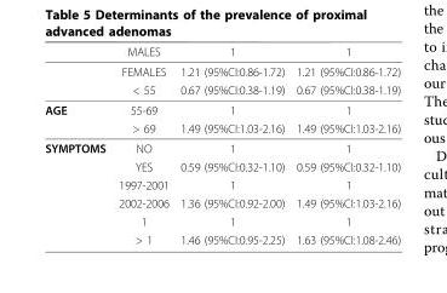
<table><thead><tr><td></td><td>MALES</td><td>1</td><td>1</td></tr></thead><tbody><tr><td></td><td>FEMALES</td><td>1.21 (95%CI:0.86-1.72)</td><td>1.21 (95%CI:0.86-1.72)</td></tr><tr><td></td><td>&lt; 55</td><td>0.67 (95%CI:0.38-1.19)</td><td>0.67 (95%CI:0.38-1.19)</td></tr><tr><td rowspan="2">AGE</td><td>55-69</td><td>1</td><td>1</td></tr><tr><td>&gt; 69</td><td>1.49 (95%CI:1.03-2.16)</td><td>1.49 (95%CI:1.03-2.16)</td></tr><tr><td rowspan="6">SYMPTOMS</td><td>NO</td><td>1</td><td>1</td></tr><tr><td>YES</td><td>0.59 (95%CI:0.32-1.10)</td><td>0.59 (95%CI:0.32-1.10)</td></tr><tr><td>1997-2001</td><td>1</td><td>1</td></tr><tr><td>2002-2006</td><td>1.36 (95%CI:0.92-2.00)</td><td>1.49 (95%CI:1.03-2.16)</td></tr><tr><td>1</td><td>1</td><td>1</td></tr><tr><td>&gt; 1</td><td>1.46 (95%CI:0.95-2.25)</td><td>1.63 (95%CI:1.08-2.46)</td></tr></tbody></table>